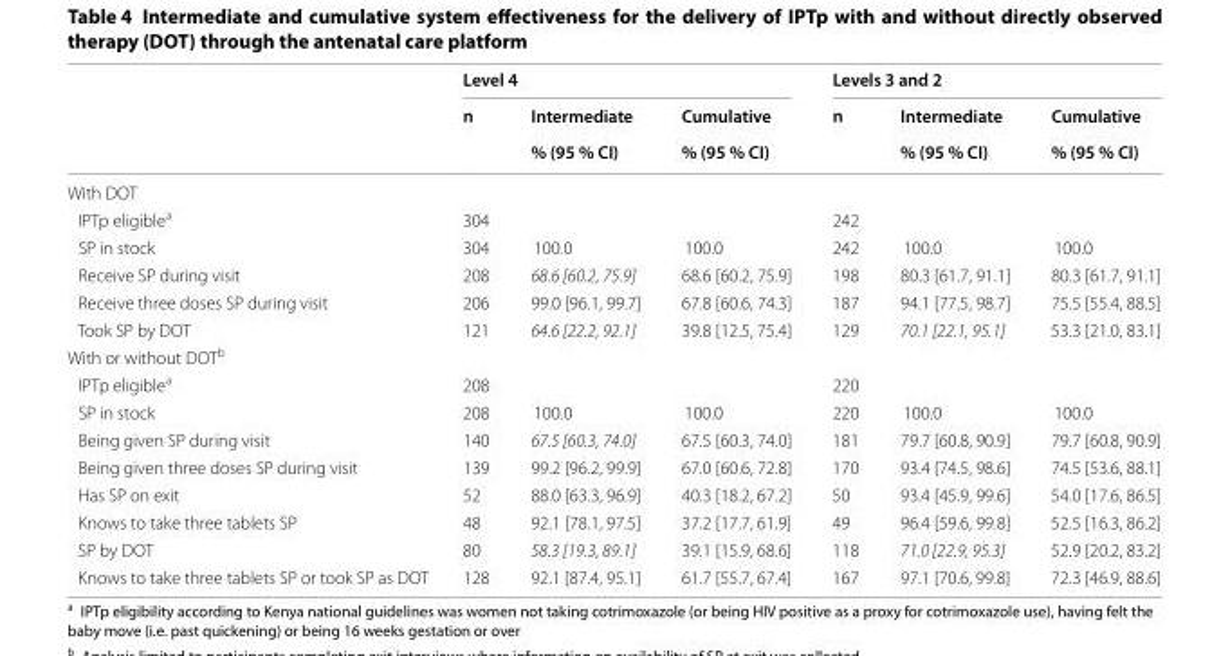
<table><thead><tr><td rowspan="3"></td><td colspan="3">Level 4</td><td colspan="3">Levels 3 and 2</td></tr><tr><td rowspan="2">n</td><td rowspan="2">Intermediate % (95 % CI)</td><td rowspan="2">Cumulative % (95 % CI)</td><td rowspan="2">n</td><td rowspan="2">Intermediate % (95 % CI)</td><td rowspan="2">Cumulative % (95 % CI)</td></tr><tr></tr></thead><tbody><tr><td colspan="7">With DOT</td></tr><tr><td>IPTp eligible<sup>a</sup></td><td>304</td><td></td><td></td><td>242</td><td></td><td></td></tr><tr><td>SP in stock</td><td>304</td><td>100.0</td><td>100.0</td><td>242</td><td>100.0</td><td>100.0</td></tr><tr><td>Receive SP during visit</td><td>208</td><td>68.6 [60.2, 75.9]</td><td>68.6 [60.2, 75.9]</td><td>198</td><td>80.3 [61.7, 91.1]</td><td>80.3 [61.7, 91.1]</td></tr><tr><td>Receive three doses SP during visit</td><td>206</td><td>99.0 [96.1, 99.7]</td><td>67.8 [60.6, 74.3]</td><td>187</td><td>94.1 [77.5, 98.7]</td><td>75.5 [55.4, 88.5]</td></tr><tr><td>Took SP by DOT</td><td>121</td><td>64.6 [22.2, 92.1]</td><td>39.8 [12.5, 75.4]</td><td>129</td><td>70.1 [22.1, 95.1]</td><td>53.3 [21.0, 83.1]</td></tr><tr><td colspan="7">With or without DOT<sup>b</sup></td></tr><tr><td>IPTp eligible<sup>a</sup></td><td>208</td><td></td><td></td><td>220</td><td></td><td></td></tr><tr><td>SP in stock</td><td>208</td><td>100.0</td><td>100.0</td><td>220</td><td>100.0</td><td>100.0</td></tr><tr><td>Being given SP during visit</td><td>140</td><td>67.5 [60.3, 74.0]</td><td>67.5 [60.3, 74.0]</td><td>181</td><td>79.7 [60.8, 90.9]</td><td>79.7 [60.8, 90.9]</td></tr><tr><td>Being given three doses SP during visit</td><td>139</td><td>99.2 [96.2, 99.9]</td><td>67.0 [60.6, 72.8]</td><td>170</td><td>93.4 [74.5, 98.6]</td><td>74.5 [53.6, 88.1]</td></tr><tr><td>Has SP on exit</td><td>52</td><td>88.0 [63.3, 96.9]</td><td>40.3 [18.2, 67.2]</td><td>50</td><td>93.4 [45.9, 99.6]</td><td>54.0 [17.6, 86.5]</td></tr><tr><td>Knows to take three tablets SP</td><td>48</td><td>92.1 [78.1, 97.5]</td><td>37.2 [17.7, 61.9]</td><td>49</td><td>96.4 [59.6, 99.8]</td><td>52.5 [16.3, 86.2]</td></tr><tr><td>SP by DOT</td><td>80</td><td>58.3 [19.3, 89.1]</td><td>39.1 [15.9, 68.6]</td><td>118</td><td>71.0 [22.9, 95.3]</td><td>52.9 [20.2, 83.2]</td></tr><tr><td>Knows to take three tablets SP or took SP as DOT</td><td>128</td><td>92.1 [87.4, 95.1]</td><td>61.7 [55.7, 67.4]</td><td>167</td><td>97.1 [70.6, 99.8]</td><td>72.3 [46.9, 88.6]</td></tr></tbody></table>